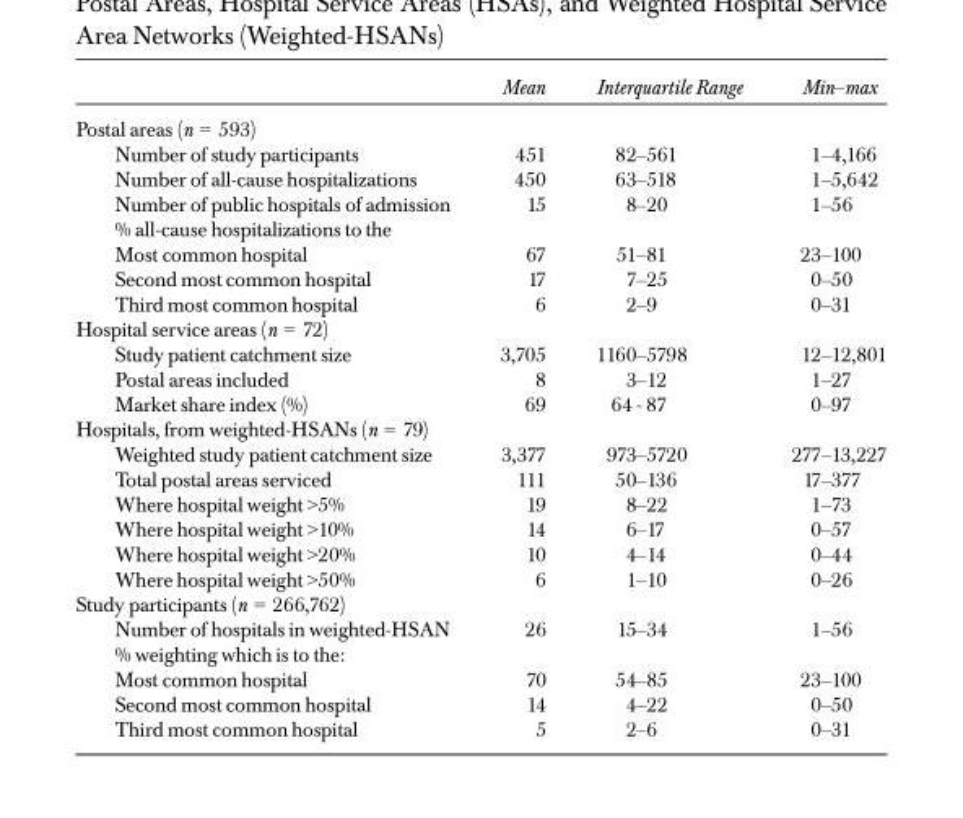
<table><thead><tr><td></td><td>Mean</td><td>Interquartile Range</td><td>Min–max</td></tr></thead><tbody><tr><td colspan="4">Postal areas (n = 593)</td></tr><tr><td>Number of study participants</td><td>451</td><td>82–561</td><td>1–4,166</td></tr><tr><td>Number of all-cause hospitalizations</td><td>450</td><td>63–518</td><td>1–5,642</td></tr><tr><td>Number of public hospitals of admission</td><td>15</td><td>8–20</td><td>1–56</td></tr><tr><td colspan="4">% all-cause hospitalizations to the</td></tr><tr><td>Most common hospital</td><td>67</td><td>51–81</td><td>23–100</td></tr><tr><td>Second most common hospital</td><td>17</td><td>7–25</td><td>0–50</td></tr><tr><td>Third most common hospital</td><td>6</td><td>2–9</td><td>0–31</td></tr><tr><td colspan="4">Hospital service areas (n = 72)</td></tr><tr><td>Study patient catchment size</td><td>3,705</td><td>1160–5798</td><td>12–12,801</td></tr><tr><td>Postal areas included</td><td>8</td><td>3–12</td><td>1–27</td></tr><tr><td>Market share index (%)</td><td>69</td><td>64 - 87</td><td>0–97</td></tr><tr><td colspan="4">Hospitals, from weighted-HSANs (n = 79)</td></tr><tr><td>Weighted study patient catchment size</td><td>3,377</td><td>973–5720</td><td>277–13,227</td></tr><tr><td>Total postal areas serviced</td><td>111</td><td>50–136</td><td>17–377</td></tr><tr><td>Where hospital weight &gt;5%</td><td>19</td><td>8–22</td><td>1–73</td></tr><tr><td>Where hospital weight &gt;10%</td><td>14</td><td>6–17</td><td>0–57</td></tr><tr><td>Where hospital weight &gt;20%</td><td>10</td><td>4–14</td><td>0–44</td></tr><tr><td>Where hospital weight &gt;50%</td><td>6</td><td>1–10</td><td>0–26</td></tr><tr><td colspan="4">Study participants (n = 266,762)</td></tr><tr><td>Number of hospitals in weighted-HSAN</td><td>26</td><td>15–34</td><td>1–56</td></tr><tr><td colspan="4">% weighting which is to the:</td></tr><tr><td>Most common hospital</td><td>70</td><td>54–85</td><td>23–100</td></tr><tr><td>Second most common hospital</td><td>14</td><td>4–22</td><td>0–50</td></tr><tr><td>Third most common hospital</td><td>5</td><td>2–6</td><td>0–31</td></tr></tbody></table>